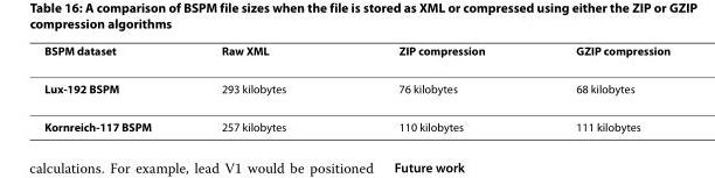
<table><thead><tr><td>BSPM dataset</td><td>Raw XML</td><td>ZIP compression</td><td>GZIP compression</td></tr></thead><tbody><tr><td>Lux-192 BSPM</td><td>293 kilobytes</td><td>76 kilobytes</td><td>68 kilobytes</td></tr><tr><td>Kornreich-117 BSPM</td><td>257 kilobytes</td><td>110 kilobytes</td><td>111 kilobytes</td></tr></tbody></table>